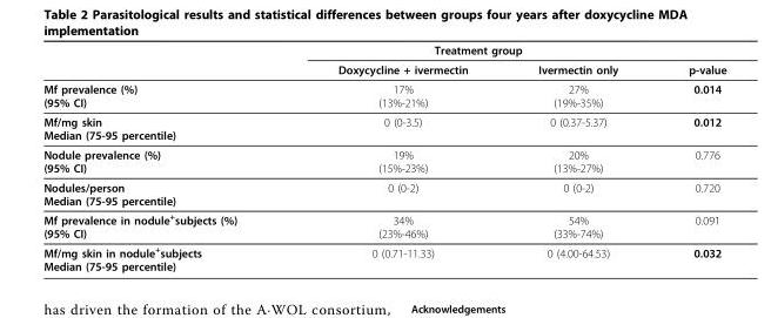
<table><thead><tr><td rowspan="2"></td><td colspan="2">Treatment group</td><td rowspan="2">p-value</td></tr><tr><td>Doxycycline + ivermectin</td><td>Ivermectin only</td></tr></thead><tbody><tr><td>Mf prevalence (%) (95% CI)</td><td>17% (13%-21%)</td><td>27% (19%-35%)</td><td>0.014</td></tr><tr><td>Mf/mg skin Median (75-95 percentile)</td><td>0 (0-3.5)</td><td>0 (0.37-5.37)</td><td>0.012</td></tr><tr><td>Nodule prevalence (%) (95% CI)</td><td>19% (15%-23%)</td><td>20% (13%-27%)</td><td>0.776</td></tr><tr><td>Nodules/person Median (75-95 percentile)</td><td>0 (0-2)</td><td>0 (0-2)</td><td>0.720</td></tr><tr><td>Mf prevalence in nodule<sup>+</sup>subjects (%) (95% CI)</td><td>34% (23%-46%)</td><td>54% (33%-74%)</td><td>0.091</td></tr><tr><td>Mf/mg skin in nodule<sup>+</sup>subjects Median (75-95 percentile)</td><td>0 (0.71-11.33)</td><td>0 (4.00-64.53)</td><td>0.032</td></tr></tbody></table>